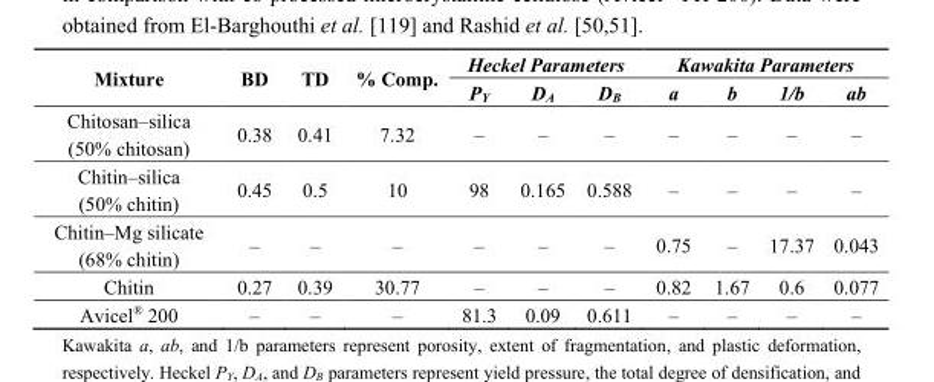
<table><thead><tr><td rowspan="2">Mixture</td><td rowspan="2">BD</td><td rowspan="2">TD</td><td rowspan="2">% Comp.</td><td colspan="3">Heckel Parameters</td><td colspan="4">Kawakita Parameters</td></tr><tr><td>P<sub>Y</sub></td><td>D<sub>A</sub></td><td>D<sub>B</sub></td><td>a</td><td>b</td><td>1/b</td><td>ab</td></tr></thead><tbody><tr><td>Chitosan–silica (50% chitosan)</td><td>0.38</td><td>0.41</td><td>7.32</td><td>–</td><td>–</td><td>–</td><td>–</td><td>–</td><td>–</td><td>–</td></tr><tr><td>Chitin–silica (50% chitin)</td><td>0.45</td><td>0.5</td><td>10</td><td>98</td><td>0.165</td><td>0.588</td><td>–</td><td>–</td><td>–</td><td>–</td></tr><tr><td>Chitin–Mg silicate (68% chitin)</td><td>–</td><td>–</td><td>–</td><td>–</td><td>–</td><td>–</td><td>0.75</td><td>–</td><td>17.37</td><td>0.043</td></tr><tr><td>Chitin</td><td>0.27</td><td>0.39</td><td>30.77</td><td>–</td><td>–</td><td>–</td><td>0.82</td><td>1.67</td><td>0.6</td><td>0.077</td></tr><tr><td>Avicel<sup>®</sup> 200</td><td>–</td><td>–</td><td>–</td><td>81.3</td><td>0.09</td><td>0.611</td><td>–</td><td>–</td><td>–</td><td>–</td></tr></tbody></table>